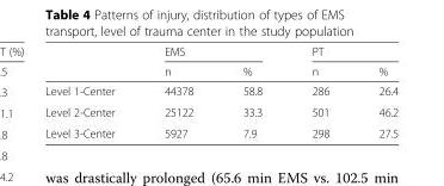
<table><thead><tr><td rowspan="2"></td><td colspan="2">EMS</td><td colspan="2">PT</td></tr><tr><td>n</td><td>%</td><td>n</td><td>%</td></tr></thead><tbody><tr><td>Level 1-Center</td><td>44378</td><td>58.8</td><td>286</td><td>26.4</td></tr><tr><td>Level 2-Center</td><td>25122</td><td>33.3</td><td>501</td><td>46.2</td></tr><tr><td>Level 3-Center</td><td>5927</td><td>7.9</td><td>298</td><td>27.5</td></tr></tbody></table>